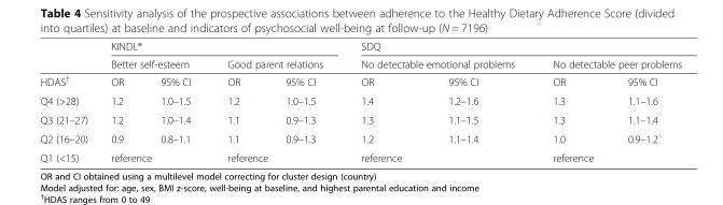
<table><thead><tr><td rowspan="3">HDAS<sup>†</sup></td><td colspan="4">KINDL®</td><td colspan="4">SDQ</td></tr><tr><td colspan="2">Better self-esteem</td><td colspan="2">Good parent relations</td><td colspan="2">No detectable emotional problems</td><td colspan="2">No detectable peer problems</td></tr><tr><td>OR</td><td>95% CI</td><td>OR</td><td>95% CI</td><td>OR</td><td>95% CI</td><td>OR</td><td>95% CI</td></tr></thead><tbody><tr><td>Q4 (&gt;28)</td><td>1.2</td><td>1.0–1.5</td><td>1.2</td><td>1.0–1.5</td><td>1.4</td><td>1.2–1.6</td><td>1.3</td><td>1.1–1.6</td></tr><tr><td>Q3 (21–27)</td><td>1.2</td><td>1.0–1.4</td><td>1.1</td><td>0.9–1.3</td><td>1.3</td><td>1.1–1.5</td><td>1.3</td><td>1.1–1.4</td></tr><tr><td>Q2 (16–20)</td><td>0.9</td><td>0.8–1.1</td><td>1.1</td><td>0.9–1.3</td><td>1.2</td><td>1.1–1.4</td><td>1.0</td><td>0.9–1.2</td></tr><tr><td>Q1 (&lt;15)</td><td colspan="2">reference</td><td colspan="2">reference</td><td colspan="2">reference</td><td colspan="2">reference</td></tr></tbody></table>